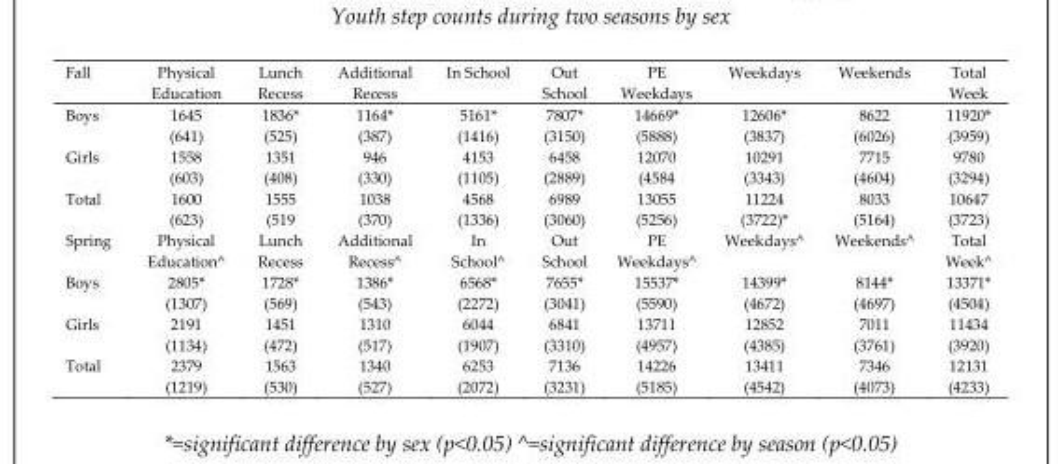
<table><thead><tr><td>Fall</td><td>Physical Education</td><td>Lunch Recess</td><td>Additional Recess</td><td>In School</td><td>Out School</td><td>PE Weekdays</td><td>Weekdays</td><td>Weekends</td><td>Total Week</td></tr></thead><tbody><tr><td>Boys</td><td>1645 (641)</td><td>1836* (525)</td><td>1164* (387)</td><td>5161* (1416)</td><td>7807* (3150)</td><td>14669* (5888)</td><td>12606* (3837)</td><td>8622 (6026)</td><td>11920* (3959)</td></tr><tr><td>Girls</td><td>1558 (603)</td><td>1351 (408)</td><td>946 (330)</td><td>4153 (1105)</td><td>6458 (2889)</td><td>12070 (4584</td><td>10291 (3343)</td><td>7715 (4604)</td><td>9780 (3294)</td></tr><tr><td>Total</td><td>1600 (623)</td><td>1555 (519</td><td>1038 (370)</td><td>4568 (1336)</td><td>6989 (3060)</td><td>13055 (5256)</td><td>11224 (3722)*</td><td>8033 (5164)</td><td>10647 (3723)</td></tr><tr><td>Spring</td><td>Physical Education^</td><td>Lunch Recess</td><td>Additional Recess^</td><td>In School^</td><td>Out School</td><td>PE Weekdays^</td><td>Weekdays^</td><td>Weekends^</td><td>Total Week^</td></tr><tr><td>Boys</td><td>2805* (1307)</td><td>1728* (569)</td><td>1386* (543)</td><td>6568* (2272)</td><td>7655* (3041)</td><td>15537* (5590)</td><td>14399* (4672)</td><td>8144* (4697)</td><td>13371* (4504)</td></tr><tr><td>Girls</td><td>2191 (1134)</td><td>1451 (472)</td><td>1310 (517)</td><td>6044 (1907)</td><td>6841 (3310)</td><td>13711 (4957)</td><td>12852 (4385)</td><td>7011 (3761)</td><td>11434 (3920)</td></tr><tr><td>Total</td><td>2379 (1219)</td><td>1563 (530)</td><td>1340 (527)</td><td>6253 (2072)</td><td>7136 (3231)</td><td>14226 (5185)</td><td>13411 (4542)</td><td>7346 (4073)</td><td>12131 (4233)</td></tr></tbody></table>